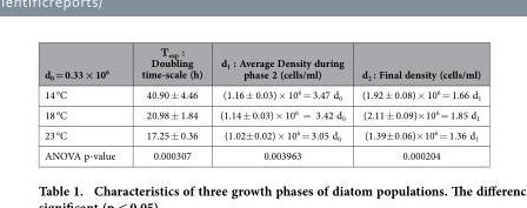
<table><thead><tr><td>d<sub>0</sub> = 0.33 × 10<sup>6</sup></td><td>Τ<sub>exp</sub> : Doubling time-scale (h)</td><td>d<sub>1</sub> : Average Density during phase 2 (cells/ml)</td><td>d<sub>2</sub> : Final density (cells/ml)</td></tr></thead><tbody><tr><td>14 °C</td><td>40.90 ± 4.46</td><td>(1.16 ± 0.03) × 10<sup>6</sup> = 3.47 d<sub>0</sub></td><td>(1.92 ± 0.08) × 10<sup>6</sup> = 1.66 d<sub>1</sub></td></tr><tr><td>18 °C</td><td>20.98 ± 1.84</td><td>(1.14 ± 0.03) × 10<sup>6</sup> = 3.42 d<sub>0</sub></td><td>(2.11 ± 0.09)× 10<sup>6</sup> = 1.85 d<sub>1</sub></td></tr><tr><td>23 °C</td><td>17.25 ± 0.36</td><td>(1.02± 0.02) × 10<sup>6</sup> = 3.05 d<sub>0</sub></td><td>(1.39± 0.06)× 10<sup>6</sup> = 1.36 d<sub>1</sub></td></tr><tr><td>ANOVA p-value</td><td>0.000307</td><td>0.003963</td><td>0.000204</td></tr></tbody></table>